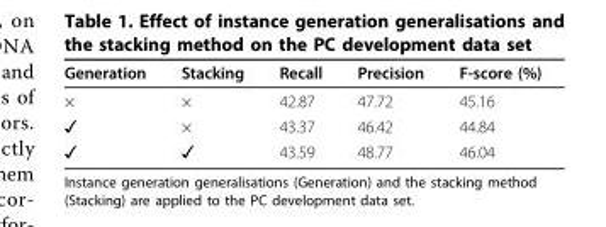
<table><thead><tr><td>Generation</td><td>Stacking</td><td>Recall</td><td>Precision</td><td>F-score (%)</td></tr></thead><tbody><tr><td>×</td><td>×</td><td>42.87</td><td>47.72</td><td>45.16</td></tr><tr><td>✓</td><td>×</td><td>43.37</td><td>46.42</td><td>44.84</td></tr><tr><td>✓</td><td>✓</td><td>43.59</td><td>48.77</td><td>46.04</td></tr></tbody></table>